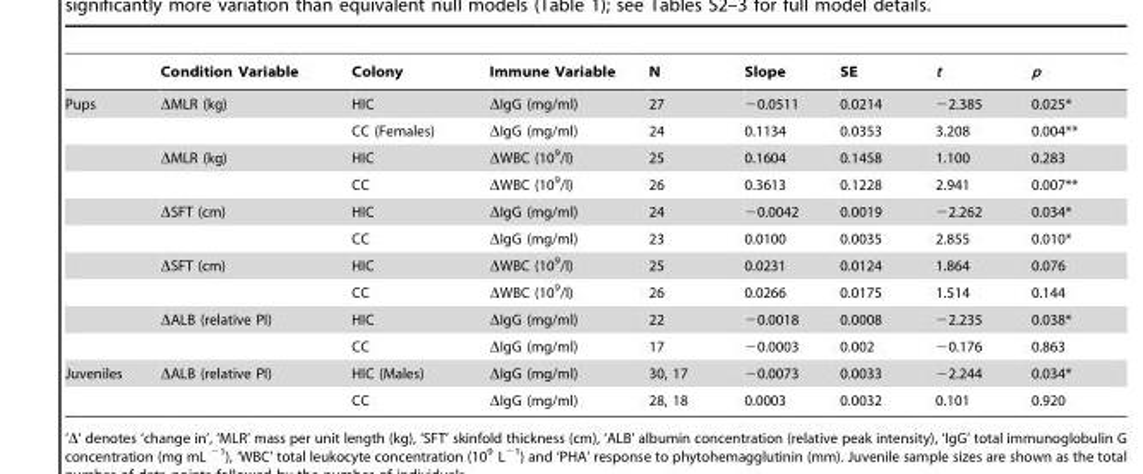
<table><thead><tr><td></td><td>Condition Variable</td><td>Colony</td><td>Immune Variable</td><td>N</td><td>Slope</td><td>SE</td><td>t</td><td>p</td></tr></thead><tbody><tr><td rowspan="10">Pups</td><td>ΔMLR (kg)</td><td>HIC</td><td>ΔIgG (mg/ml)</td><td>27</td><td>−0.0511</td><td>0.0214</td><td>−2.385</td><td>0.025*</td></tr><tr><td></td><td>CC (Females)</td><td>ΔIgG (mg/ml)</td><td>24</td><td>0.1134</td><td>0.0353</td><td>3.208</td><td>0.004**</td></tr><tr><td>ΔMLR (kg)</td><td>HIC</td><td>ΔWBC (10<sup>9</sup>/l)</td><td>25</td><td>0.1604</td><td>0.1458</td><td>1.100</td><td>0.283</td></tr><tr><td></td><td>CC</td><td>ΔWBC (10<sup>9</sup>/l)</td><td>26</td><td>0.3613</td><td>0.1228</td><td>2.941</td><td>0.007**</td></tr><tr><td>ΔSFT (cm)</td><td>HIC</td><td>ΔIgG (mg/ml)</td><td>24</td><td>−0.0042</td><td>0.0019</td><td>−2.262</td><td>0.034*</td></tr><tr><td></td><td>CC</td><td>ΔIgG (mg/ml)</td><td>23</td><td>0.0100</td><td>0.0035</td><td>2.855</td><td>0.010*</td></tr><tr><td>ΔSFT (cm)</td><td>HIC</td><td>ΔWBC (10<sup>9</sup>/l)</td><td>25</td><td>0.0231</td><td>0.0124</td><td>1.864</td><td>0.076</td></tr><tr><td></td><td>CC</td><td>ΔWBC (10<sup>9</sup>/l)</td><td>26</td><td>0.0266</td><td>0.0175</td><td>1.514</td><td>0.144</td></tr><tr><td>ΔALB (relative PI)</td><td>HIC</td><td>ΔIgG (mg/ml)</td><td>22</td><td>−0.0018</td><td>0.0008</td><td>−2.235</td><td>0.038*</td></tr><tr><td></td><td>CC</td><td>ΔIgG (mg/ml)</td><td>17</td><td>−0.0003</td><td>0.002</td><td>−0.176</td><td>0.863</td></tr><tr><td rowspan="2">Juveniles</td><td>ΔALB (relative PI)</td><td>HIC (Males)</td><td>ΔIgG (mg/ml)</td><td>30, 17</td><td>−0.0073</td><td>0.0033</td><td>−2.244</td><td>0.034*</td></tr><tr><td></td><td>CC</td><td>ΔIgG (mg/ml)</td><td>28, 18</td><td>0.0003</td><td>0.0032</td><td>0.101</td><td>0.920</td></tr></tbody></table>